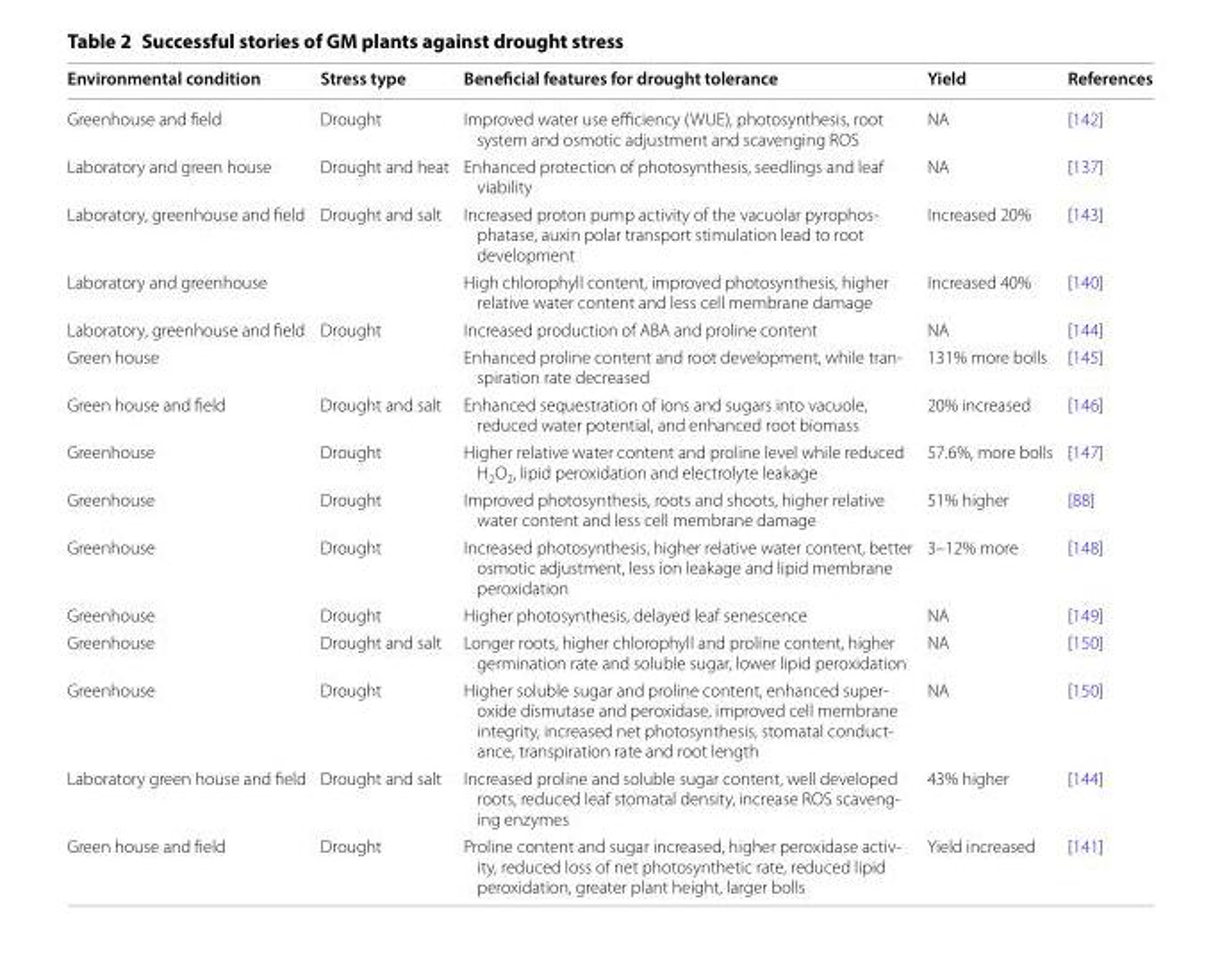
<table><thead><tr><td>Environmental condition</td><td>Stress type</td><td>Beneficial features for drought tolerance</td><td>Yield</td><td>References</td></tr></thead><tbody><tr><td>Greenhouse and field</td><td>Drought</td><td>Improved water use efficiency (WUE), photosynthesis, root system and osmotic adjustment and scavenging ROS</td><td>NA</td><td>[142]</td></tr><tr><td>Laboratory and green house</td><td>Drought and heat</td><td>Enhanced protection of photosynthesis, seedlings and leaf viability</td><td>NA</td><td>[137]</td></tr><tr><td>Laboratory, greenhouse and field</td><td>Drought and salt</td><td>Increased proton pump activity of the vacuolar pyrophos- phatase, auxin polar transport stimulation lead to root development</td><td>Increased 20%</td><td>[143]</td></tr><tr><td>Laboratory and greenhouse</td><td></td><td>High chlorophyll content, improved photosynthesis, higher relative water content and less cell membrane damage</td><td>Increased 40%</td><td>[140]</td></tr><tr><td>Laboratory, greenhouse and field</td><td>Drought</td><td>Increased production of ABA and proline content</td><td>NA</td><td>[144]</td></tr><tr><td>Green house</td><td></td><td>Enhanced proline content and root development, while tran- spiration rate decreased</td><td>131% more bolls</td><td>[145]</td></tr><tr><td>Green house and field</td><td>Drought and salt</td><td>Enhanced sequestration of ions and sugars into vacuole, reduced water potential, and enhanced root biomass</td><td>20% increased</td><td>[146]</td></tr><tr><td>Greenhouse</td><td>Drought</td><td>Higher relative water content and proline level while reduced H<sub>2</sub>O<sub>2</sub>, lipid peroxidation and electrolyte leakage</td><td>57.6%, more bolls</td><td>[147]</td></tr><tr><td>Greenhouse</td><td>Drought</td><td>Improved photosynthesis, roots and shoots, higher relative water content and less cell membrane damage</td><td>51% higher</td><td>[88]</td></tr><tr><td>Greenhouse</td><td>Drought</td><td>Increased photosynthesis, higher relative water content, better osmotic adjustment, less ion leakage and lipid membrane peroxidation</td><td>3–12% more</td><td>[148]</td></tr><tr><td>Greenhouse</td><td>Drought</td><td>Higher photosynthesis, delayed leaf senescence</td><td>NA</td><td>[149]</td></tr><tr><td>Greenhouse</td><td>Drought and salt</td><td>Longer roots, higher chlorophyll and proline content, higher germination rate and soluble sugar, lower lipid peroxidation</td><td>NA</td><td>[150]</td></tr><tr><td>Greenhouse</td><td>Drought</td><td>Higher soluble sugar and proline content, enhanced super- oxide dismutase and peroxidase, improved cell membrane integrity, increased net photosynthesis, stomatal conduct- ance, transpiration rate and root length</td><td>NA</td><td>[150]</td></tr><tr><td>Laboratory green house and field</td><td>Drought and salt</td><td>Increased proline and soluble sugar content, well developed roots, reduced leaf stomatal density, increase ROS scaveng- ing enzymes</td><td>43% higher</td><td>[144]</td></tr><tr><td>Green house and field</td><td>Drought</td><td>Proline content and sugar increased, higher peroxidase activ- ity, reduced loss of net photosynthetic rate, reduced lipid peroxidation, greater plant height, larger bolls</td><td>Yield increased</td><td>[141]</td></tr></tbody></table>